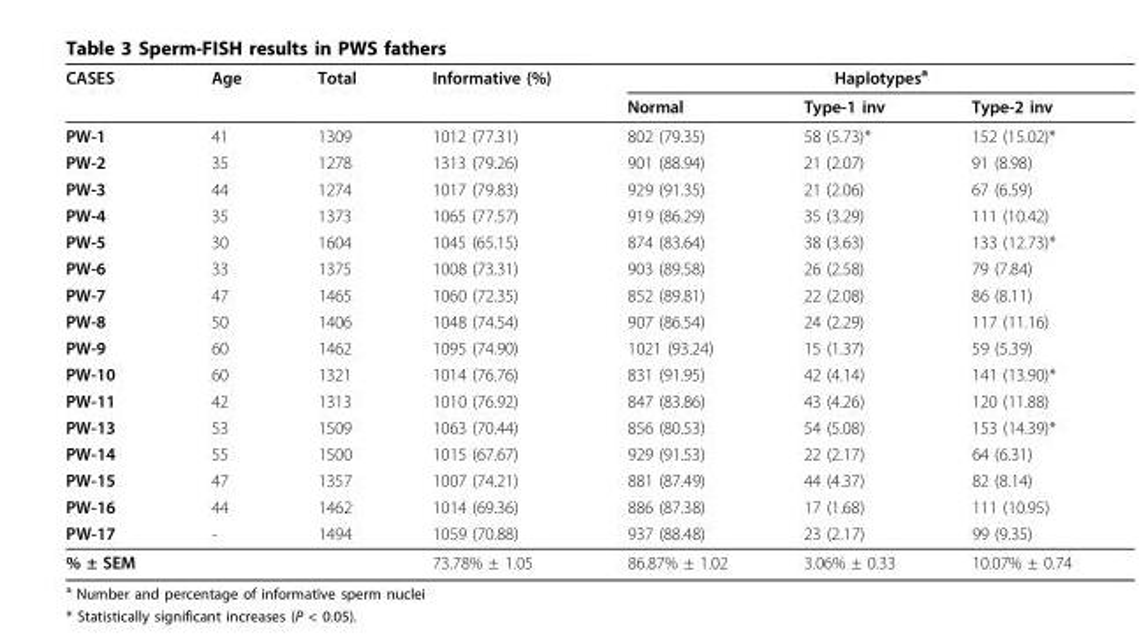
<table><thead><tr><td rowspan="2">CASES</td><td rowspan="2">Age</td><td rowspan="2">Total</td><td rowspan="2">Informative (%)</td><td colspan="3">Haplotypes<sup>a</sup></td></tr><tr><td>Normal</td><td>Type-1 inv</td><td>Type-2 inv</td></tr></thead><tbody><tr><td>PW-1</td><td>41</td><td>1309</td><td>1012 (77.31)</td><td>802 (79.35)</td><td>58 (5.73)*</td><td>152 (15.02)*</td></tr><tr><td>PW-2</td><td>35</td><td>1278</td><td>1313 (79.26)</td><td>901 (88.94)</td><td>21 (2.07)</td><td>91 (8.98)</td></tr><tr><td>PW-3</td><td>44</td><td>1274</td><td>1017 (79.83)</td><td>929 (91.35)</td><td>21 (2.06)</td><td>67 (6.59)</td></tr><tr><td>PW-4</td><td>35</td><td>1373</td><td>1065 (77.57)</td><td>919 (86.29)</td><td>35 (3.29)</td><td>111 (10.42)</td></tr><tr><td>PW-5</td><td>30</td><td>1604</td><td>1045 (65.15)</td><td>874 (83.64)</td><td>38 (3.63)</td><td>133 (12.73)*</td></tr><tr><td>PW-6</td><td>33</td><td>1375</td><td>1008 (73.31)</td><td>903 (89.58)</td><td>26 (2.58)</td><td>79 (7.84)</td></tr><tr><td>PW-7</td><td>47</td><td>1465</td><td>1060 (72.35)</td><td>852 (89.81)</td><td>22 (2.08)</td><td>86 (8.11)</td></tr><tr><td>PW-8</td><td>50</td><td>1406</td><td>1048 (74.54)</td><td>907 (86.54)</td><td>24 (2.29)</td><td>117 (11.16)</td></tr><tr><td>PW-9</td><td>60</td><td>1462</td><td>1095 (74.90)</td><td>1021 (93.24)</td><td>15 (1.37)</td><td>59 (5.39)</td></tr><tr><td>PW-10</td><td>60</td><td>1321</td><td>1014 (76.76)</td><td>831 (91.95)</td><td>42 (4.14)</td><td>141 (13.90)*</td></tr><tr><td>PW-11</td><td>42</td><td>1313</td><td>1010 (76.92)</td><td>847 (83.86)</td><td>43 (4.26)</td><td>120 (11.88)</td></tr><tr><td>PW-13</td><td>53</td><td>1509</td><td>1063 (70.44)</td><td>856 (80.53)</td><td>54 (5.08)</td><td>153 (14.39)*</td></tr><tr><td>PW-14</td><td>55</td><td>1500</td><td>1015 (67.67)</td><td>929 (91.53)</td><td>22 (2.17)</td><td>64 (6.31)</td></tr><tr><td>PW-15</td><td>47</td><td>1357</td><td>1007 (74.21)</td><td>881 (87.49)</td><td>44 (4.37)</td><td>82 (8.14)</td></tr><tr><td>PW-16</td><td>44</td><td>1462</td><td>1014 (69.36)</td><td>886 (87.38)</td><td>17 (1.68)</td><td>111 (10.95)</td></tr><tr><td>PW-17</td><td>-</td><td>1494</td><td>1059 (70.88)</td><td>937 (88.48)</td><td>23 (2.17)</td><td>99 (9.35)</td></tr><tr><td>% ± SEM</td><td></td><td></td><td>73.78% ± 1.05</td><td>86.87% ± 1.02</td><td>3.06% ± 0.33</td><td>10.07% ± 0.74</td></tr></tbody></table>